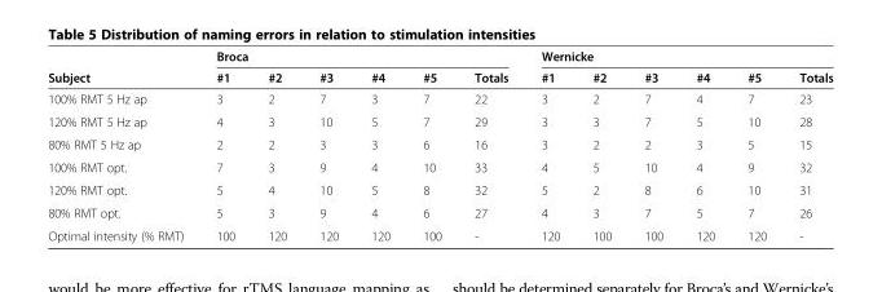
<table><thead><tr><td rowspan="2">Subject</td><td colspan="6">Broca</td><td colspan="6">Wernicke</td></tr><tr><td>#1</td><td>#2</td><td>#3</td><td>#4</td><td>#5</td><td>Totals</td><td>#1</td><td>#2</td><td>#3</td><td>#4</td><td>#5</td><td>Totals</td></tr></thead><tbody><tr><td>100% RMT 5 Hz ap</td><td>3</td><td>2</td><td>7</td><td>3</td><td>7</td><td>22</td><td>3</td><td>2</td><td>7</td><td>4</td><td>7</td><td>23</td></tr><tr><td>120% RMT 5 Hz ap</td><td>4</td><td>3</td><td>10</td><td>5</td><td>7</td><td>29</td><td>3</td><td>3</td><td>7</td><td>5</td><td>10</td><td>28</td></tr><tr><td>80% RMT 5 Hz ap</td><td>2</td><td>2</td><td>3</td><td>3</td><td>6</td><td>16</td><td>3</td><td>2</td><td>2</td><td>3</td><td>5</td><td>15</td></tr><tr><td>100% RMT opt.</td><td>7</td><td>3</td><td>9</td><td>4</td><td>10</td><td>33</td><td>4</td><td>5</td><td>10</td><td>4</td><td>9</td><td>32</td></tr><tr><td>120% RMT opt.</td><td>5</td><td>4</td><td>10</td><td>5</td><td>8</td><td>32</td><td>5</td><td>2</td><td>8</td><td>6</td><td>10</td><td>31</td></tr><tr><td>80% RMT opt.</td><td>5</td><td>3</td><td>9</td><td>4</td><td>6</td><td>27</td><td>4</td><td>3</td><td>7</td><td>5</td><td>7</td><td>26</td></tr><tr><td>Optimal intensity (% RMT)</td><td>100</td><td>120</td><td>120</td><td>120</td><td>100</td><td>-</td><td>120</td><td>100</td><td>100</td><td>120</td><td>120</td><td>-</td></tr></tbody></table>